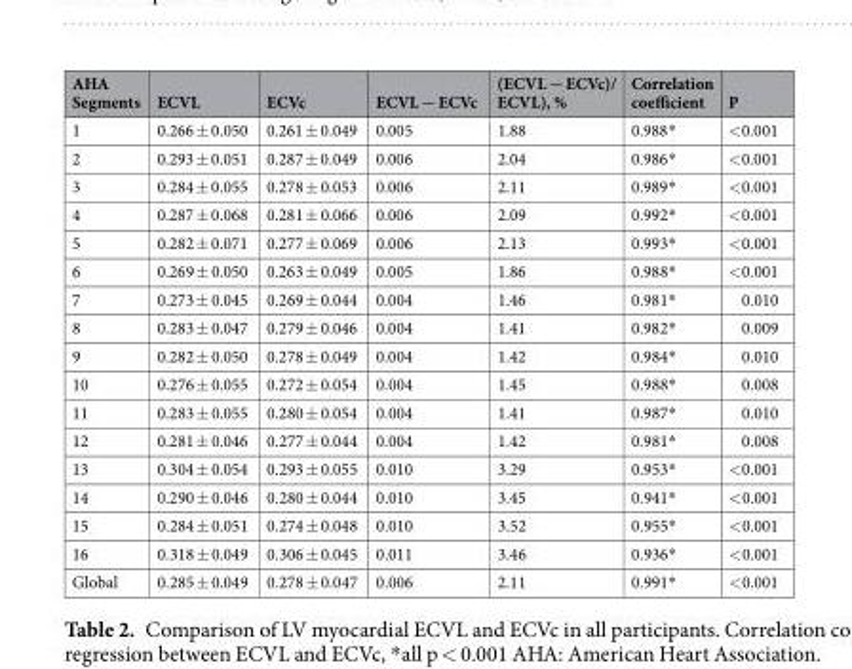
<table><thead><tr><td>AHA Segments</td><td>ECVL</td><td>ECVc</td><td>ECVL − ECVc</td><td>(ECVL − ECVc)/ ECVL), %</td><td>Correlation coefficient</td><td>P</td></tr></thead><tbody><tr><td>1</td><td>0.266 ± 0.050</td><td>0.261 ± 0.049</td><td>0.005</td><td>1.88</td><td>0.988*</td><td>&lt;0.001</td></tr><tr><td>2</td><td>0.293 ± 0.051</td><td>0.287 ± 0.049</td><td>0.006</td><td>2.04</td><td>0.986*</td><td>&lt;0.001</td></tr><tr><td>3</td><td>0.284 ± 0.055</td><td>0.278 ± 0.053</td><td>0.006</td><td>2.11</td><td>0.989*</td><td>&lt;0.001</td></tr><tr><td>4</td><td>0.287 ± 0.068</td><td>0.281 ± 0.066</td><td>0.006</td><td>2.09</td><td>0.992*</td><td>&lt;0.001</td></tr><tr><td>5</td><td>0.282 ± 0.071</td><td>0.277 ± 0.069</td><td>0.006</td><td>2.13</td><td>0.993*</td><td>&lt;0.001</td></tr><tr><td>6</td><td>0.269 ± 0.050</td><td>0.263 ± 0.049</td><td>0.005</td><td>1.86</td><td>0.988*</td><td>&lt;0.001</td></tr><tr><td>7</td><td>0.273 ± 0.045</td><td>0.269 ± 0.044</td><td>0.004</td><td>1.46</td><td>0.981*</td><td>0.010</td></tr><tr><td>8</td><td>0.283 ± 0.047</td><td>0.279 ± 0.046</td><td>0.004</td><td>1.41</td><td>0.982*</td><td>0.009</td></tr><tr><td>9</td><td>0.282 ± 0.050</td><td>0.278 ± 0.049</td><td>0.004</td><td>1.42</td><td>0.984*</td><td>0.010</td></tr><tr><td>10</td><td>0.276 ± 0.055</td><td>0.272 ± 0.054</td><td>0.004</td><td>1.45</td><td>0.988*</td><td>0.008</td></tr><tr><td>11</td><td>0.283 ± 0.055</td><td>0.280 ± 0.054</td><td>0.004</td><td>1.41</td><td>0.987*</td><td>0.010</td></tr><tr><td>12</td><td>0.281 ± 0.046</td><td>0.277 ± 0.044</td><td>0.004</td><td>1.42</td><td>0.981*</td><td>0.008</td></tr><tr><td>13</td><td>0.304 ± 0.054</td><td>0.293 ± 0.055</td><td>0.010</td><td>3.29</td><td>0.953*</td><td>&lt;0.001</td></tr><tr><td>14</td><td>0.290 ± 0.046</td><td>0.280 ± 0.044</td><td>0.010</td><td>3.45</td><td>0.941*</td><td>&lt;0.001</td></tr><tr><td>15</td><td>0.284 ± 0.051</td><td>0.274 ± 0.048</td><td>0.010</td><td>3.52</td><td>0.955*</td><td>&lt;0.001</td></tr><tr><td>16</td><td>0.318 ± 0.049</td><td>0.306 ± 0.045</td><td>0.011</td><td>3.46</td><td>0.936*</td><td>&lt;0.001</td></tr><tr><td>Global</td><td>0.285 ± 0.049</td><td>0.278 ± 0.047</td><td>0.006</td><td>2.11</td><td>0.991*</td><td>&lt;0.001</td></tr></tbody></table>